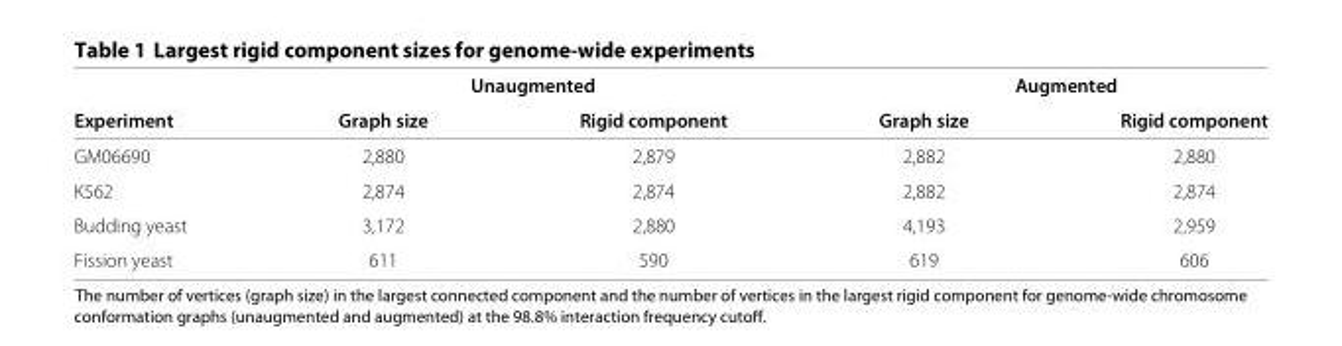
<table><thead><tr><td rowspan="2">Experiment</td><td colspan="2">Unaugmented</td><td colspan="2">Augmented</td></tr><tr><td>Graph size</td><td>Rigid component</td><td>Graph size</td><td>Rigid component</td></tr></thead><tbody><tr><td>GM06690</td><td>2,880</td><td>2,879</td><td>2,882</td><td>2,880</td></tr><tr><td>K562</td><td>2,874</td><td>2,874</td><td>2,882</td><td>2,874</td></tr><tr><td>Budding yeast</td><td>3,172</td><td>2,880</td><td>4,193</td><td>2,959</td></tr><tr><td>Fission yeast</td><td>611</td><td>590</td><td>619</td><td>606</td></tr></tbody></table>